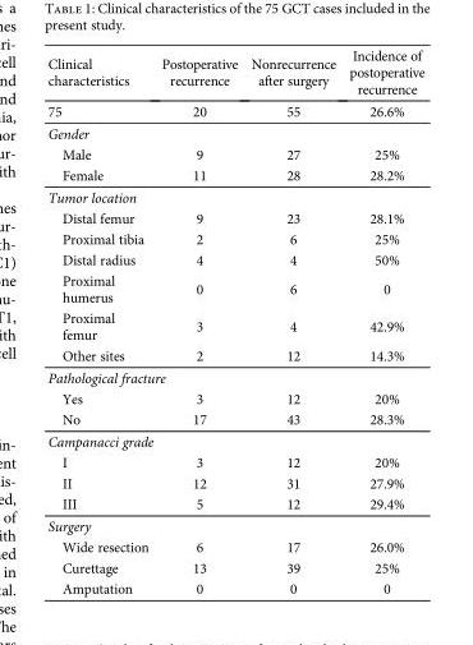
<table><thead><tr><td>Clinical characteristics</td><td>Postoperative recurrence</td><td>Nonrecurrence after surgery</td><td>Incidence of postoperative recurrence</td></tr></thead><tbody><tr><td>75</td><td>20</td><td>55</td><td>26.6%</td></tr><tr><td colspan="4">Gender</td></tr><tr><td>Male</td><td>9</td><td>27</td><td>25%</td></tr><tr><td>Female</td><td>11</td><td>28</td><td>28.2%</td></tr><tr><td colspan="4">Tumor location</td></tr><tr><td>Distal femur</td><td>9</td><td>23</td><td>28.1%</td></tr><tr><td>Proximal tibia</td><td>2</td><td>6</td><td>25%</td></tr><tr><td>Distal radius</td><td>4</td><td>4</td><td>50%</td></tr><tr><td>Proximal humerus</td><td>0</td><td>6</td><td>0</td></tr><tr><td>Proximal femur</td><td>3</td><td>4</td><td>42.9%</td></tr><tr><td>Other sites</td><td>2</td><td>12</td><td>14.3%</td></tr><tr><td colspan="4">Pathological fracture</td></tr><tr><td>Yes</td><td>3</td><td>12</td><td>20%</td></tr><tr><td>No</td><td>17</td><td>43</td><td>28.3%</td></tr><tr><td colspan="4">Campanacci grade</td></tr><tr><td>I</td><td>3</td><td>12</td><td>20%</td></tr><tr><td>II</td><td>12</td><td>31</td><td>27.9%</td></tr><tr><td>III</td><td>5</td><td>12</td><td>29.4%</td></tr><tr><td colspan="4">Surgery</td></tr><tr><td>Wide resection</td><td>6</td><td>17</td><td>26.0%</td></tr><tr><td>Curettage</td><td>13</td><td>39</td><td>25%</td></tr><tr><td>Amputation</td><td>0</td><td>0</td><td>0</td></tr></tbody></table>